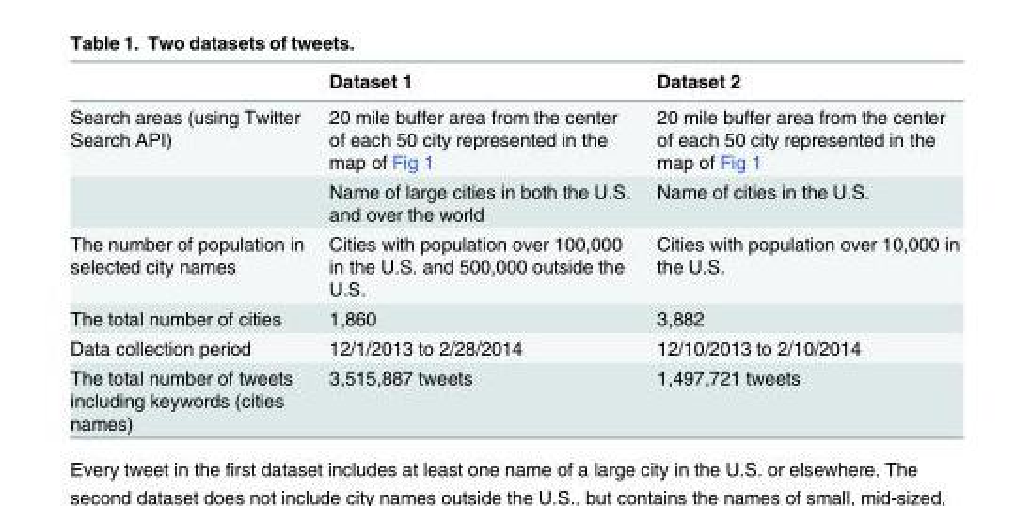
<table><thead><tr><td></td><td>Dataset 1</td><td>Dataset 2</td></tr></thead><tbody><tr><td rowspan="2">Search areas (using Twitter Search API)</td><td>20 mile buffer area from the center of each 50 city represented in the map of Fig 1</td><td>20 mile buffer area from the center of each 50 city represented in the map of Fig 1</td></tr><tr><td>Name of large cities in both the U.S. and over the world</td><td>Name of cities in the U.S.</td></tr><tr><td>The number of population in selected city names</td><td>Cities with population over 100,000 in the U.S. and 500,000 outside the U.S.</td><td>Cities with population over 10,000 in the U.S.</td></tr><tr><td>The total number of cities</td><td>1,860</td><td>3,882</td></tr><tr><td>Data collection period</td><td>12/1/2013 to 2/28/2014</td><td>12/10/2013 to 2/10/2014</td></tr><tr><td>The total number of tweets including keywords (cities names)</td><td>3,515,887 tweets</td><td>1,497,721 tweets</td></tr></tbody></table>